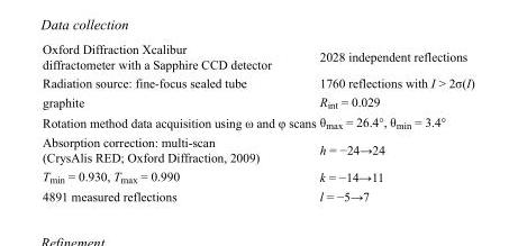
<table><tbody><tr><td>Oxford Diffraction Xcalibur diffractometer with a Sapphire CCD detector</td><td>2028 independent reflections</td></tr><tr><td>Radiation source: fine-focus sealed tube</td><td>1760 reflections with I &gt; 2σ(I)</td></tr><tr><td>graphite</td><td>R<sub>int</sub> = 0.029</td></tr><tr><td>Rotation method data acquisition using ω and φ scans</td><td>θ<sub>max</sub> = 26.4°, θ<sub>min</sub> = 3.4°</td></tr><tr><td>Absorption correction: multi-scan (CrysAlis RED; Oxford Diffraction, 2009)</td><td>h = −24→24</td></tr><tr><td>T<sub>min</sub> = 0.930, T<sub>max</sub> = 0.990</td><td>k = −14→11</td></tr><tr><td>4891 measured reflections</td><td>l = −5→7</td></tr></tbody></table>